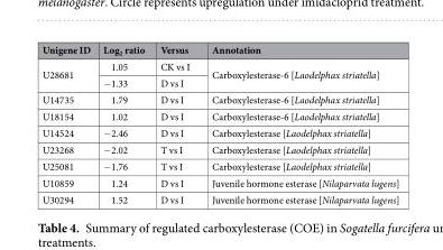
<table><thead><tr><td>Unigene ID</td><td>Log<sub>2</sub> ratio</td><td>Versus</td><td>Annotation</td></tr></thead><tbody><tr><td rowspan="2">U28681</td><td>1.05</td><td>CK vs I</td><td rowspan="2">Carboxylesterase-6 [Laodelphax striatella]</td></tr><tr><td>−1.33</td><td>D vs I</td></tr><tr><td>U14735</td><td>1.79</td><td>D vs I</td><td>Carboxylesterase-6 [Laodelphax striatella]</td></tr><tr><td>U18154</td><td>1.02</td><td>D vs I</td><td>Carboxylesterase-6 [Laodelphax striatella]</td></tr><tr><td>U14524</td><td>−2.46</td><td>D vs I</td><td>Carboxylesterase [Laodelphax striatella]</td></tr><tr><td>U23268</td><td>−2.02</td><td>T vs I</td><td>Carboxylesterase [Laodelphax striatella]</td></tr><tr><td>U25081</td><td>−1.76</td><td>T vs I</td><td>Carboxylesterase [Laodelphax striatella]</td></tr><tr><td>U10859</td><td>1.24</td><td>D vs I</td><td>Juvenile hormone esterase [Nilaparvata lugens]</td></tr><tr><td>U30294</td><td>1.52</td><td>D vs I</td><td>Juvenile hormone esterase [Nilaparvata lugens]</td></tr></tbody></table>